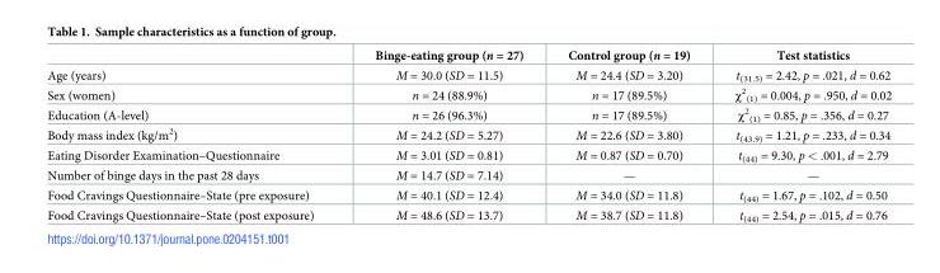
<table><thead><tr><td></td><td>Binge-eating group (n = 27)</td><td>Control group (n = 19)</td><td>Test statistics</td></tr></thead><tbody><tr><td>Age (years)</td><td>M = 30.0 (SD = 11.5)</td><td>M = 24.4 (SD = 3.20)</td><td>t<sub>(31.5)</sub> = 2.42, p = .021, d = 0.62</td></tr><tr><td>Sex (women)</td><td>n = 24 (88.9%)</td><td>n = 17 (89.5%)</td><td>χ<sup>2</sup> <sub>(1)</sub> = 0.004, p = .950, d = 0.02</td></tr><tr><td>Education (A-level)</td><td>n = 26 (96.3%)</td><td>n = 17 (89.5%)</td><td>χ<sup>2</sup> <sub>(1)</sub> = 0.85, p = .356, d = 0.27</td></tr><tr><td>Body mass index (kg/m<sup>2</sup>)</td><td>M = 24.2 (SD = 5.27)</td><td>M = 22.6 (SD = 3.80)</td><td>t<sub>(43.9)</sub> = 1.21, p = .233, d = 0.34</td></tr><tr><td>Eating Disorder Examination–Questionnaire</td><td>M = 3.01 (SD = 0.81)</td><td>M = 0.87 (SD = 0.70)</td><td>t<sub>(44)</sub> = 9.30, p &lt; .001, d = 2.79</td></tr><tr><td>Number of binge days in the past 28 days</td><td>M = 14.7 (SD = 7.14)</td><td>—</td><td>—</td></tr><tr><td>Food Cravings Questionnaire–State (pre exposure)</td><td>M = 40.1 (SD = 12.4)</td><td>M = 34.0 (SD = 11.8)</td><td>t<sub>(44)</sub> = 1.67, p = .102, d = 0.50</td></tr><tr><td>Food Cravings Questionnaire–State (post exposure)</td><td>M = 48.6 (SD = 13.7)</td><td>M = 38.7 (SD = 11.8)</td><td>t<sub>(44)</sub> = 2.54, p = .015, d = 0.76</td></tr></tbody></table>